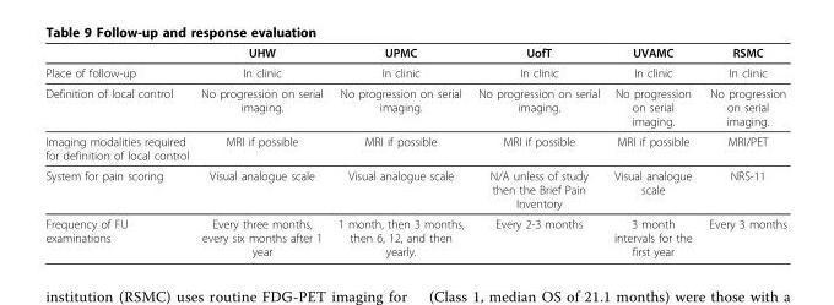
<table><thead><tr><td></td><td>UHW</td><td>UPMC</td><td>UofT</td><td>UVAMC</td><td>RSMC</td></tr></thead><tbody><tr><td>Place of follow-up</td><td>In clinic</td><td>In clinic</td><td>In clinic</td><td>In clinic</td><td>In clinic</td></tr><tr><td>Definition of local control</td><td>No progression on serial imaging.</td><td>No progression on serial imaging.</td><td>No progression on serial imaging.</td><td>No progression on serial imaging.</td><td>No progression on serial imaging.</td></tr><tr><td>Imaging modalities required for definition of local control</td><td>MRI if possible</td><td>MRI if possible</td><td>MRI if possible</td><td>MRI if possible</td><td>MRI/PET</td></tr><tr><td>System for pain scoring</td><td>Visual analogue scale</td><td>Visual analogue scale</td><td>N/A unless of study then the Brief Pain Inventory</td><td>Visual analogue scale</td><td>NRS-11</td></tr><tr><td>Frequency of FU examinations</td><td>Every three months, every six months after 1 year</td><td>1 month, then 3 months, then 6, 12, and then yearly.</td><td>Every 2-3 months</td><td>3 month intervals for the first year</td><td>Every 3 months</td></tr></tbody></table>